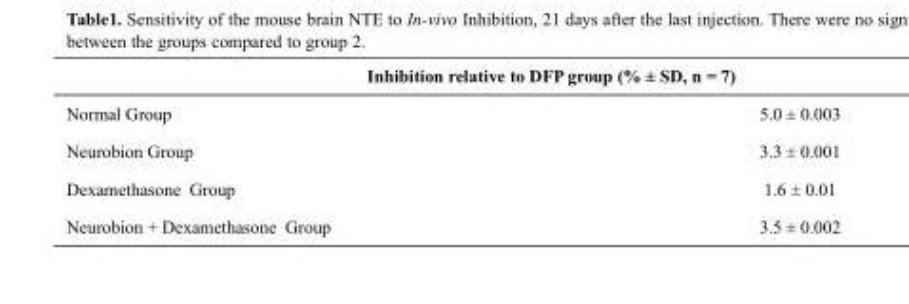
<table><thead><tr><td colspan="2">Inhibition relative to DFP group (% ± SD, n = 7)</td></tr><tr><td>Normal Group</td><td>5.0 ± 0.003</td></tr></thead><tbody><tr><td>Neurobion Group</td><td>3.3 ± 0.001</td></tr><tr><td>Dexamethasone Group</td><td>1.6 ± 0.01</td></tr><tr><td>Neurobion + Dexamethasone Group</td><td>3.5 ± 0.002</td></tr></tbody></table>